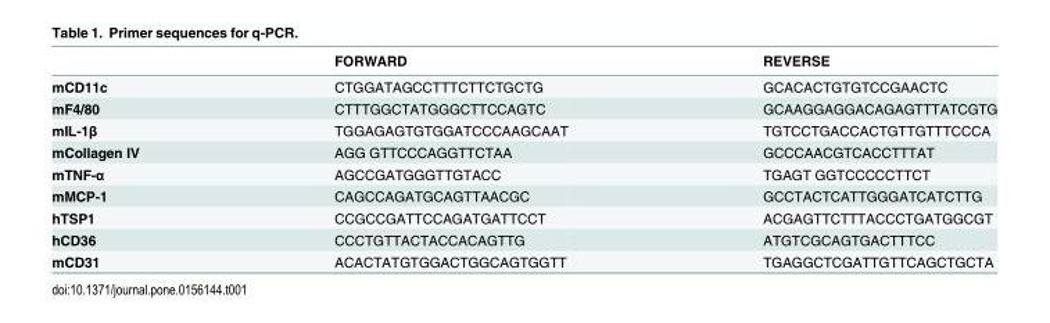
<table><thead><tr><td></td><td>FORWARD</td><td>REVERSE</td></tr></thead><tbody><tr><td>mCD11c</td><td>CTGGATAGCCTTTCTTCTGCTG</td><td>GCACACTGTGTCCGAACTC</td></tr><tr><td>mF4/80</td><td>CTTTGGCTATGGGCTTCCAGTC</td><td>GCAAGGAGGACAGAGTTTATCGTG</td></tr><tr><td>mIL-1β</td><td>TGGAGAGTGTGGATCCCAAGCAAT</td><td>TGTCCTGACCACTGTTGTTTCCCA</td></tr><tr><td>mCollagen IV</td><td>AGG GTTCCCAGGTTCTAA</td><td>GCCCAACGTCACCTTTAT</td></tr><tr><td>mTNF-α</td><td>AGCCGATGGGTTGTACC</td><td>TGAGT GGTCCCCCTTCT</td></tr><tr><td>mMCP-1</td><td>CAGCCAGATGCAGTTAACGC</td><td>GCCTACTCATTGGGATCATCTTG</td></tr><tr><td>hTSP1</td><td>CCGCCGATTCCAGATGATTCCT</td><td>ACGAGTTCTTTACCCTGATGGCGT</td></tr><tr><td>hCD36</td><td>CCCTGTTACTACCACAGTTG</td><td>ATGTCGCAGTGACTTTCC</td></tr><tr><td>mCD31</td><td>ACACTATGTGGACTGGCAGTGGTT</td><td>TGAGGCTCGATTGTTCAGCTGCTA</td></tr></tbody></table>